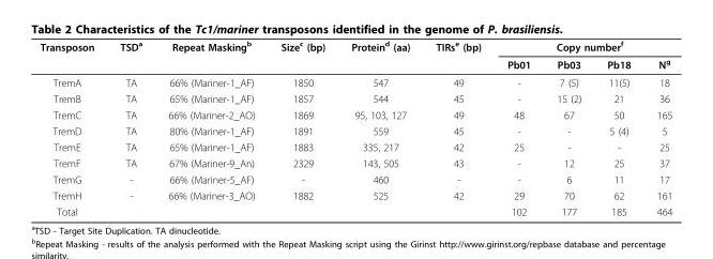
<table><thead><tr><td rowspan="2">Transposon</td><td rowspan="2">TSD<sup>a</sup></td><td rowspan="2">Repeat Masking<sup>b</sup></td><td rowspan="2">Size<sup>c</sup> (bp)</td><td rowspan="2">Protein<sup>d</sup> (aa)</td><td rowspan="2">TIRs<sup>e</sup> (bp)</td><td colspan="4">Copy number<sup>f</sup></td></tr><tr><td>Pb01</td><td>Pb03</td><td>Pb18</td><td>N<sup>g</sup></td></tr></thead><tbody><tr><td>TremA</td><td>TA</td><td>66% (Mariner-1_AF)</td><td>1850</td><td>547</td><td>49</td><td>-</td><td>7 (5)</td><td>11(5)</td><td>18</td></tr><tr><td>TremB</td><td>TA</td><td>65% (Mariner-1_AF)</td><td>1857</td><td>544</td><td>45</td><td>-</td><td>15 (2)</td><td>21</td><td>36</td></tr><tr><td>TremC</td><td>TA</td><td>66% (Mariner-2_AO)</td><td>1869</td><td>95, 103, 127</td><td>49</td><td>48</td><td>67</td><td>50</td><td>165</td></tr><tr><td>TremD</td><td>TA</td><td>80% (Mariner-1_AF)</td><td>1891</td><td>559</td><td>45</td><td>-</td><td>-</td><td>5 (4)</td><td>5</td></tr><tr><td>TremE</td><td>TA</td><td>65% (Mariner-1_AF)</td><td>1883</td><td>335, 217</td><td>42</td><td>25</td><td>-</td><td>-</td><td>25</td></tr><tr><td>TremF</td><td>TA</td><td>67% (Mariner-9_An)</td><td>2329</td><td>143, 505</td><td>43</td><td>-</td><td>12</td><td>25</td><td>37</td></tr><tr><td>TremG</td><td>-</td><td>66% (Mariner-5_AF)</td><td>-</td><td>460</td><td>-</td><td>-</td><td>6</td><td>11</td><td>17</td></tr><tr><td>TremH</td><td>-</td><td>66% (Mariner-3_AO)</td><td>1882</td><td>525</td><td>42</td><td>29</td><td>70</td><td>62</td><td>161</td></tr><tr><td>Total</td><td></td><td></td><td></td><td></td><td></td><td>102</td><td>177</td><td>185</td><td>464</td></tr></tbody></table>